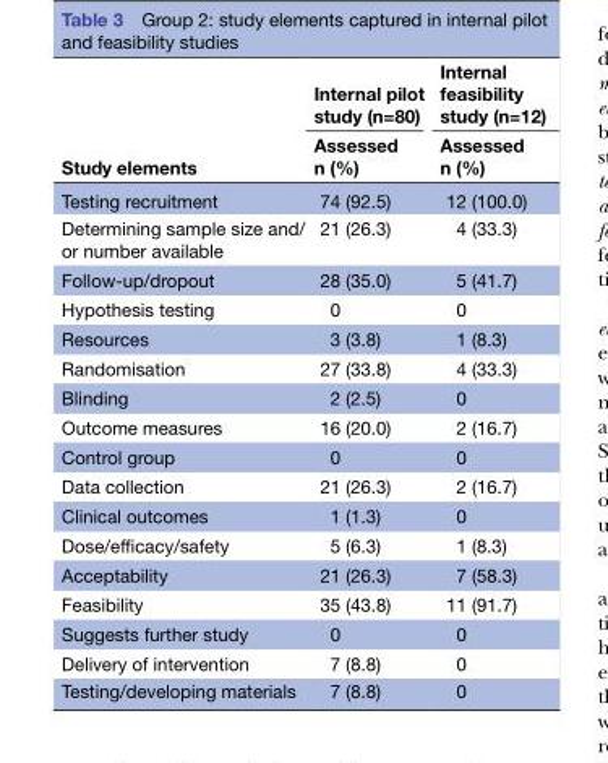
<table><thead><tr><td rowspan="2">Study elements</td><td rowspan="2">Internal pilot study (n=80) Assessed n (%)</td><td rowspan="2">Internal feasibility study (n=12) Assessed n (%)</td></tr><tr></tr></thead><tbody><tr><td>Testing recruitment</td><td>74 (92.5)</td><td>12 (100.0)</td></tr><tr><td>Determining sample size and/ or number available</td><td>21 (26.3)</td><td>4 (33.3)</td></tr><tr><td>Follow-up/dropout</td><td>28 (35.0)</td><td>5 (41.7)</td></tr><tr><td>Hypothesis testing</td><td>0</td><td>0</td></tr><tr><td>Resources</td><td>3 (3.8)</td><td>1 (8.3)</td></tr><tr><td>Randomisation</td><td>27 (33.8)</td><td>4 (33.3)</td></tr><tr><td>Blinding</td><td>2 (2.5)</td><td>0</td></tr><tr><td>Outcome measures</td><td>16 (20.0)</td><td>2 (16.7)</td></tr><tr><td>Control group</td><td>0</td><td>0</td></tr><tr><td>Data collection</td><td>21 (26.3)</td><td>2 (16.7)</td></tr><tr><td>Clinical outcomes</td><td>1 (1.3)</td><td>0</td></tr><tr><td>Dose/efficacy/safety</td><td>5 (6.3)</td><td>1 (8.3)</td></tr><tr><td>Acceptability</td><td>21 (26.3)</td><td>7 (58.3)</td></tr><tr><td>Feasibility</td><td>35 (43.8)</td><td>11 (91.7)</td></tr><tr><td>Suggests further study</td><td>0</td><td>0</td></tr><tr><td>Delivery of intervention</td><td>7 (8.8)</td><td>0</td></tr><tr><td>Testing/developing materials</td><td>7 (8.8)</td><td>0</td></tr></tbody></table>